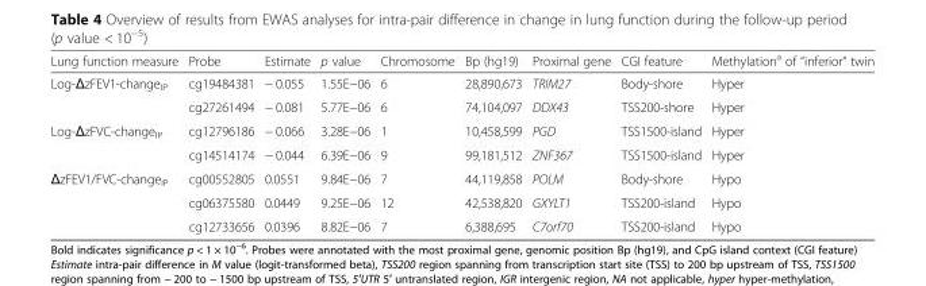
<table><thead><tr><td>Lung function measure</td><td>Probe</td><td>Estimate</td><td>p value</td><td>Chromosome</td><td>Bp (hg19)</td><td>Proximal gene</td><td>CGI feature</td><td>Methylation<sup>a</sup> of “inferior” twin</td></tr></thead><tbody><tr><td rowspan="2">Log-ΔzFEV1-change<sub>IP</sub></td><td>cg19484381</td><td>− 0.055</td><td>1.55E−06</td><td>6</td><td>28,890,673</td><td>TRIM27</td><td>Body-shore</td><td>Hyper</td></tr><tr><td>cg27261494</td><td>− 0.081</td><td>5.77E−06</td><td>6</td><td>74,104,097</td><td>DDX43</td><td>TSS200-shore</td><td>Hyper</td></tr><tr><td rowspan="2">Log-ΔzFVC-change<sub>IP</sub></td><td>cg12796186</td><td>− 0.066</td><td>3.28E−06</td><td>1</td><td>10,458,599</td><td>PGD</td><td>TSS1500-island</td><td>Hyper</td></tr><tr><td>cg14514174</td><td>− 0.044</td><td>6.39E−06</td><td>9</td><td>99,181,512</td><td>ZNF367</td><td>TSS1500-island</td><td>Hyper</td></tr><tr><td rowspan="3">ΔzFEV1/FVC-change<sub>IP</sub></td><td>cg00552805</td><td>0.0551</td><td>9.84E−06</td><td>7</td><td>44,119,858</td><td>POLM</td><td>Body-shore</td><td>Hypo</td></tr><tr><td>cg06375580</td><td>0.0449</td><td>9.25E−06</td><td>12</td><td>42,538,820</td><td>GXYLT1</td><td>TSS200-island</td><td>Hypo</td></tr><tr><td>cg12733656</td><td>0.0396</td><td>8.82E−06</td><td>7</td><td>6,388,695</td><td>C7orf70</td><td>TSS200-island</td><td>Hypo</td></tr></tbody></table>